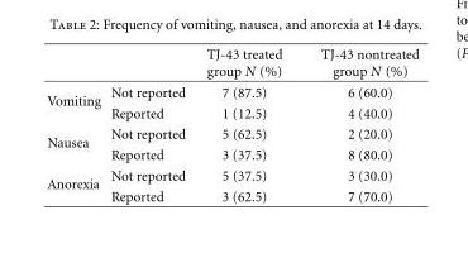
<table><thead><tr><td></td><td></td><td>TJ-43 treated group N (%)</td><td>TJ-43 nontreated group N (%)</td></tr></thead><tbody><tr><td rowspan="2">Vomiting</td><td>Not reported</td><td>7 (87.5)</td><td>6 (60.0)</td></tr><tr><td>Reported</td><td>1 (12.5)</td><td>4 (40.0)</td></tr><tr><td rowspan="2">Nausea</td><td>Not reported</td><td>5 (62.5)</td><td>2 (20.0)</td></tr><tr><td>Reported</td><td>3 (37.5)</td><td>8 (80.0)</td></tr><tr><td rowspan="2">Anorexia</td><td>Not reported</td><td>5 (37.5)</td><td>3 (30.0)</td></tr><tr><td>Reported</td><td>3 (62.5)</td><td>7 (70.0)</td></tr></tbody></table>